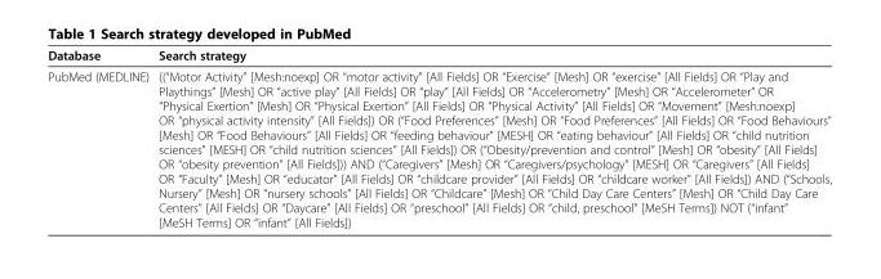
<table><thead><tr><td>Database</td><td>Search strategy</td></tr></thead><tbody><tr><td>PubMed (MEDLINE)</td><td>((“Motor Activity” [Mesh:noexp] OR “motor activity” [All Fields] OR “Exercise” [Mesh] OR “exercise” [All Fields] OR “Play and Playthings” [Mesh] OR “active play” [All Fields] OR “play” [All Fields] OR “Accelerometry” [Mesh] OR “Accelerometer” OR “Physical Exertion” [Mesh] OR “Physical Exertion” [All Fields] OR “Physical Activity” [All Fields] OR “Movement” [Mesh:noexp] OR “physical activity intensity” [All Fields]) OR (“Food Preferences” [Mesh] OR “Food Preferences” [All Fields] OR “Food Behaviours” [Mesh] OR “Food Behaviours” [All Fields] OR “feeding behaviour” [MESH] OR “eating behaviour” [All Fields] OR “child nutrition sciences” [MESH] OR “child nutrition sciences” [All Fields]) OR (“Obesity/prevention and control” [Mesh] OR “obesity” [All Fields] OR “obesity prevention” [All Fields])) AND (“Caregivers” [Mesh] OR “Caregivers/psychology” [MESH] OR “Caregivers” [All Fields] OR “Faculty” [Mesh] OR “educator” [All Fields] OR “childcare provider” [All Fields] OR “childcare worker” [All Fields]) AND (“Schools, Nursery” [Mesh] OR “nursery schools” [All Fields] OR “Childcare” [Mesh] OR “Child Day Care Centers” [Mesh] OR “Child Day Care Centers” [All Fields] OR “Daycare” [All Fields] OR “preschool” [All Fields] OR “child, preschool” [MeSH Terms]) NOT (“infant” [MeSH Terms] OR “infant” [All Fields])</td></tr></tbody></table>